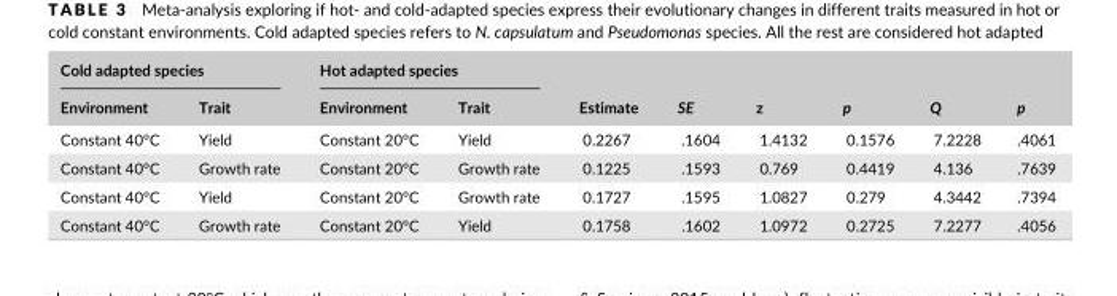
<table><thead><tr><td colspan="2">Cold adapted species</td><td colspan="2">Hot adapted species</td><td rowspan="2">Estimate</td><td rowspan="2">SE</td><td rowspan="2">z</td><td rowspan="2">p</td><td rowspan="2">Q</td><td rowspan="2">p</td></tr><tr><td>Environment</td><td>Trait</td><td>Environment</td><td>Trait</td></tr></thead><tbody><tr><td>Constant 40°C</td><td>Yield</td><td>Constant 20°C</td><td>Yield</td><td>0.2267</td><td>.1604</td><td>1.4132</td><td>0.1576</td><td>7.2228</td><td>.4061</td></tr><tr><td>Constant 40°C</td><td>Growth rate</td><td>Constant 20°C</td><td>Growth rate</td><td>0.1225</td><td>.1593</td><td>0.769</td><td>0.4419</td><td>4.136</td><td>.7639</td></tr><tr><td>Constant 40°C</td><td>Yield</td><td>Constant 20°C</td><td>Growth rate</td><td>0.1727</td><td>.1595</td><td>1.0827</td><td>0.279</td><td>4.3442</td><td>.7394</td></tr><tr><td>Constant 40°C</td><td>Growth rate</td><td>Constant 20°C</td><td>Yield</td><td>0.1758</td><td>.1602</td><td>1.0972</td><td>0.2725</td><td>7.2277</td><td>.4056</td></tr></tbody></table>